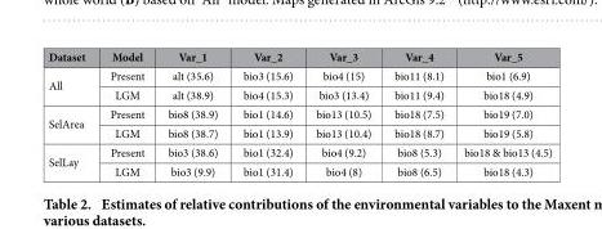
<table><thead><tr><td>Dataset</td><td>Model</td><td>Var_1</td><td>Var_2</td><td>Var_3</td><td>Var_4</td><td>Var_5</td></tr></thead><tbody><tr><td rowspan="2">All</td><td>Present</td><td>alt (35.6)</td><td>bio3 (15.6)</td><td>bio4 (15)</td><td>bio11 (8.1)</td><td>bio1 (6.9)</td></tr><tr><td>LGM</td><td>alt (38.9)</td><td>bio4 (15.3)</td><td>bio3 (13.4)</td><td>bio11 (9.4)</td><td>bio18 (4.9)</td></tr><tr><td rowspan="2">SelArea</td><td>Present</td><td>bio8 (38.9)</td><td>bio1 (14.6)</td><td>bio13 (10.5)</td><td>bio18 (7.5)</td><td>bio19 (7.0)</td></tr><tr><td>LGM</td><td>bio8 (38.7)</td><td>bio1 (13.9)</td><td>bio13 (10.4)</td><td>bio18 (8.7)</td><td>bio19 (5.8)</td></tr><tr><td rowspan="2">SelLay</td><td>Present</td><td>bio3 (38.6)</td><td>bio1 (32.4)</td><td>bio4 (9.2)</td><td>bio8 (5.3)</td><td>bio18 &amp; bio13 (4.5)</td></tr><tr><td>LGM</td><td>bio3 (9.9)</td><td>bio1 (31.4)</td><td>bio4 (8)</td><td>bio8 (6.5)</td><td>bio18 (4.3)</td></tr></tbody></table>